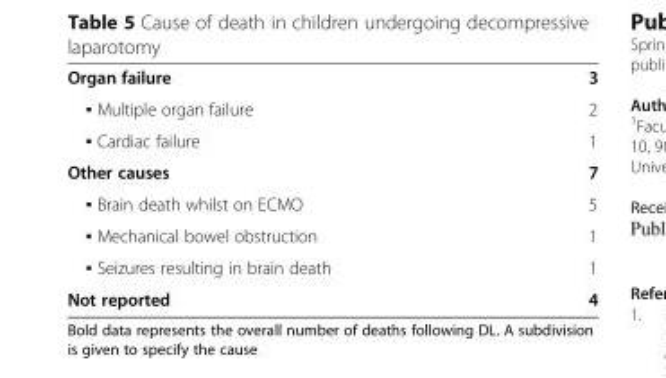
<table><tbody><tr><td>Organ failure</td><td>3</td></tr><tr><td>▪ Multiple organ failure</td><td>2</td></tr><tr><td>▪ Cardiac failure</td><td>1</td></tr><tr><td>Other causes</td><td>7</td></tr><tr><td>▪ Brain death whilst on ECMO</td><td>5</td></tr><tr><td>▪ Mechanical bowel obstruction</td><td>1</td></tr><tr><td>▪ Seizures resulting in brain death</td><td>1</td></tr><tr><td>Not reported</td><td>4</td></tr></tbody></table>